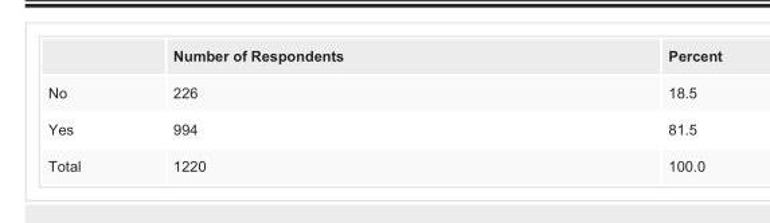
<table><thead><tr><td></td><td>Number of Respondents</td><td>Percent</td></tr></thead><tbody><tr><td>No</td><td>226</td><td>18.5</td></tr><tr><td>Yes</td><td>994</td><td>81.5</td></tr><tr><td>Total</td><td>1220</td><td>100.0</td></tr></tbody></table>